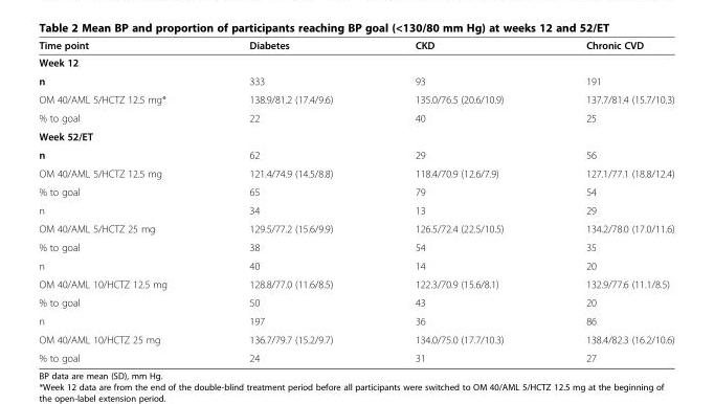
<table><thead><tr><td>Time point</td><td>Diabetes</td><td>CKD</td><td>Chronic CVD</td></tr></thead><tbody><tr><td colspan="4">Week 12</td></tr><tr><td>n</td><td>333</td><td>93</td><td>191</td></tr><tr><td>OM 40/AML 5/HCTZ 12.5 mg*</td><td>138.9/81.2 (17.4/9.6)</td><td>135.0/76.5 (20.6/10.9)</td><td>137.7/81.4 (15.7/10.3)</td></tr><tr><td>% to goal</td><td>22</td><td>40</td><td>25</td></tr><tr><td colspan="4">Week 52/ET</td></tr><tr><td>n</td><td>62</td><td>29</td><td>56</td></tr><tr><td>OM 40/AML 5/HCTZ 12.5 mg</td><td>121.4/74.9 (14.5/8.8)</td><td>118.4/70.9 (12.6/7.9)</td><td>127.1/77.1 (18.8/12.4)</td></tr><tr><td>% to goal</td><td>65</td><td>79</td><td>54</td></tr><tr><td>n</td><td>34</td><td>13</td><td>29</td></tr><tr><td>OM 40/AML 5/HCTZ 25 mg</td><td>129.5/77.2 (15.6/9.9)</td><td>126.5/72.4 (22.5/10.5)</td><td>134.2/78.0 (17.0/11.6)</td></tr><tr><td>% to goal</td><td>38</td><td>54</td><td>35</td></tr><tr><td>n</td><td>40</td><td>14</td><td>20</td></tr><tr><td>OM 40/AML 10/HCTZ 12.5 mg</td><td>128.8/77.0 (11.6/8.5)</td><td>122.3/70.9 (15.6/8.1)</td><td>132.9/77.6 (11.1/8.5)</td></tr><tr><td>% to goal</td><td>50</td><td>43</td><td>20</td></tr><tr><td>n</td><td>197</td><td>36</td><td>86</td></tr><tr><td>OM 40/AML 10/HCTZ 25 mg</td><td>136.7/79.7 (15.2/9.7)</td><td>134.0/75.0 (17.7/10.3)</td><td>138.4/82.3 (16.2/10.6)</td></tr><tr><td>% to goal</td><td>24</td><td>31</td><td>27</td></tr></tbody></table>